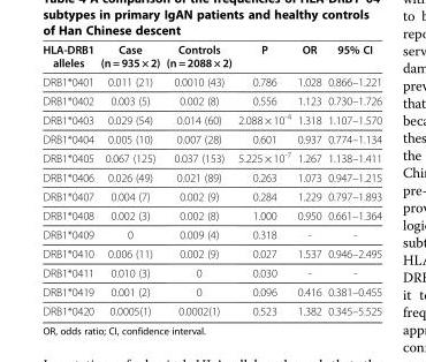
<table><thead><tr><td>HLA-DRB1 alleles</td><td>Case (n = 935 × 2)</td><td>Controls (n = 2088 × 2)</td><td>P</td><td>OR</td><td>95% CI</td></tr></thead><tbody><tr><td>DRB1*0401</td><td>0.011 (21)</td><td>0.0010 (43)</td><td>0.786</td><td>1.028</td><td>0.866–1.221</td></tr><tr><td>DRB1*0402</td><td>0.003 (5)</td><td>0.002 (8)</td><td>0.556</td><td>1.123</td><td>0.730–1.726</td></tr><tr><td>DRB1*0403</td><td>0.029 (54)</td><td>0.014 (60)</td><td>2.088 × 10<sup>-4</sup></td><td>1.318</td><td>1.107–1.570</td></tr><tr><td>DRB1*0404</td><td>0.005 (10)</td><td>0.007 (28)</td><td>0.601</td><td>0.937</td><td>0.774–1.134</td></tr><tr><td>DRB1*0405</td><td>0.067 (125)</td><td>0.037 (153)</td><td>5.225 × 10<sup>-7</sup></td><td>1.267</td><td>1.138–1.411</td></tr><tr><td>DRB1*0406</td><td>0.026 (49)</td><td>0.021 (89)</td><td>0.263</td><td>1.073</td><td>0.947–1.215</td></tr><tr><td>DRB1*0407</td><td>0.004 (7)</td><td>0.002 (9)</td><td>0.284</td><td>1.229</td><td>0.797–1.893</td></tr><tr><td>DRB1*0408</td><td>0.002 (3)</td><td>0.002 (8)</td><td>1.000</td><td>0.950</td><td>0.661–1.364</td></tr><tr><td>DRB1*0409</td><td>0</td><td>0.009 (4)</td><td>0.318</td><td>-</td><td>-</td></tr><tr><td>DRB1*0410</td><td>0.006 (11)</td><td>0.002 (9)</td><td>0.027</td><td>1.537</td><td>0.946–2.495</td></tr><tr><td>DRB1*0411</td><td>0.010 (3)</td><td>0</td><td>0.030</td><td>-</td><td>-</td></tr><tr><td>DRB1*0419</td><td>0.001 (2)</td><td>0</td><td>0.096</td><td>0.416</td><td>0.381–0.455</td></tr><tr><td>DRB1*0420</td><td>0.0005(1)</td><td>0.0002(1)</td><td>0.523</td><td>1.382</td><td>0.345–5.525</td></tr></tbody></table>